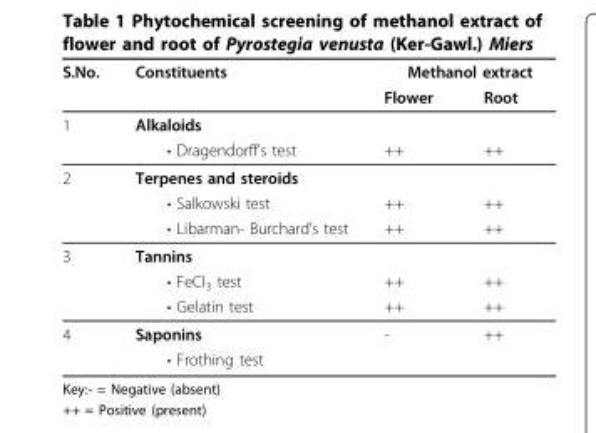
<table><thead><tr><td rowspan="2">S.No.</td><td rowspan="2">Constituents</td><td colspan="2">Methanol extract</td></tr><tr><td>Flower</td><td>Root</td></tr></thead><tbody><tr><td rowspan="2">1</td><td>Alkaloids</td><td></td><td></td></tr><tr><td>• Dragendorff’s test</td><td>++</td><td>++</td></tr><tr><td rowspan="3">2</td><td>Terpenes and steroids</td><td></td><td></td></tr><tr><td>• Salkowski test</td><td>++</td><td>++</td></tr><tr><td>• Libarman- Burchard’s test</td><td>++</td><td>++</td></tr><tr><td rowspan="3">3</td><td>Tannins</td><td></td><td></td></tr><tr><td>• FeCl<sub>3</sub> test</td><td>++</td><td>++</td></tr><tr><td>• Gelatin test</td><td>++</td><td>++</td></tr><tr><td rowspan="2">4</td><td>Saponins</td><td>-</td><td>++</td></tr><tr><td>• Frothing test</td><td></td><td></td></tr></tbody></table>